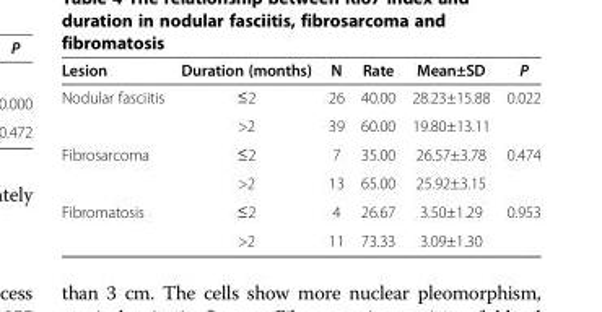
<table><thead><tr><td>Lesion</td><td>Duration (months)</td><td>N</td><td>Rate</td><td>Mean±SD</td><td>P</td></tr></thead><tbody><tr><td rowspan="2">Nodular fasciitis</td><td>≤2</td><td>26</td><td>40.00</td><td>28.23±15.88</td><td>0.022</td></tr><tr><td>&gt;2</td><td>39</td><td>60.00</td><td>19.80±13.11</td><td></td></tr><tr><td rowspan="2">Fibrosarcoma</td><td>≤2</td><td>7</td><td>35.00</td><td>26.57±3.78</td><td>0.474</td></tr><tr><td>&gt;2</td><td>13</td><td>65.00</td><td>25.92±3.15</td><td></td></tr><tr><td rowspan="2">Fibromatosis</td><td>≤2</td><td>4</td><td>26.67</td><td>3.50±1.29</td><td>0.953</td></tr><tr><td>&gt;2</td><td>11</td><td>73.33</td><td>3.09±1.30</td><td></td></tr></tbody></table>